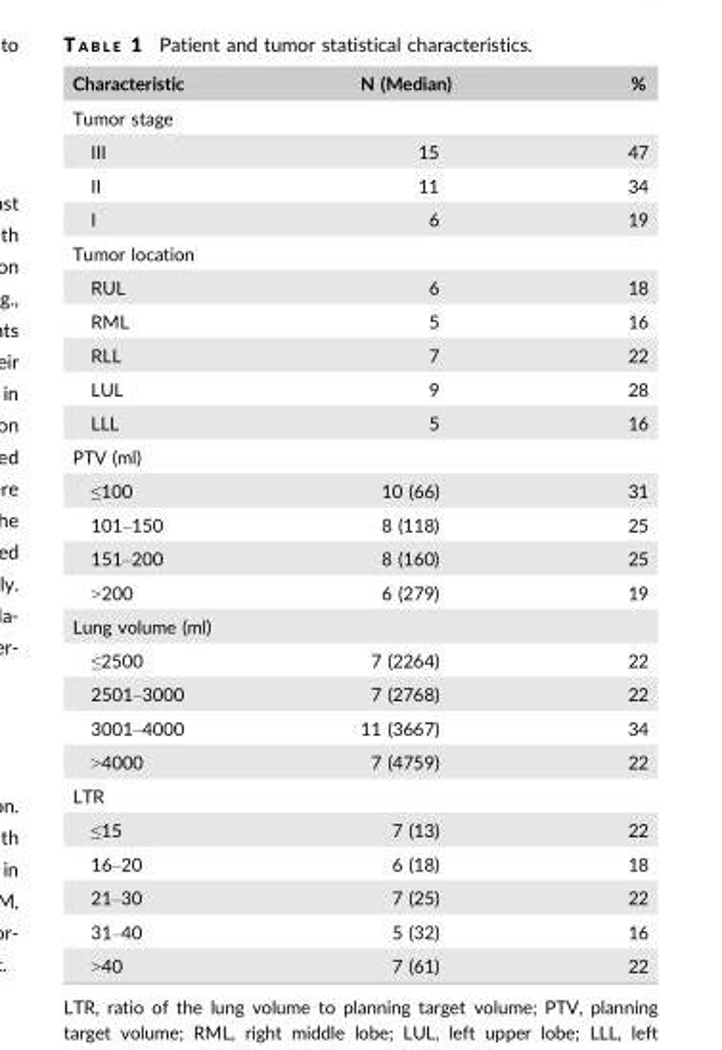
<table><thead><tr><td>Characteristic</td><td>N (Median)</td><td>%</td></tr></thead><tbody><tr><td colspan="3">Tumor stage</td></tr><tr><td>III</td><td>15</td><td>47</td></tr><tr><td>II</td><td>11</td><td>34</td></tr><tr><td>I</td><td>6</td><td>19</td></tr><tr><td colspan="3">Tumor location</td></tr><tr><td>RUL</td><td>6</td><td>18</td></tr><tr><td>RML</td><td>5</td><td>16</td></tr><tr><td>RLL</td><td>7</td><td>22</td></tr><tr><td>LUL</td><td>9</td><td>28</td></tr><tr><td>LLL</td><td>5</td><td>16</td></tr><tr><td colspan="3">PTV (ml)</td></tr><tr><td>≤100</td><td>10 (66)</td><td>31</td></tr><tr><td>101–150</td><td>8 (118)</td><td>25</td></tr><tr><td>151–200</td><td>8 (160)</td><td>25</td></tr><tr><td>&gt;200</td><td>6 (279)</td><td>19</td></tr><tr><td colspan="3">Lung volume (ml)</td></tr><tr><td>≤2500</td><td>7 (2264)</td><td>22</td></tr><tr><td>2501–3000</td><td>7 (2768)</td><td>22</td></tr><tr><td>3001–4000</td><td>11 (3667)</td><td>34</td></tr><tr><td>&gt;4000</td><td>7 (4759)</td><td>22</td></tr><tr><td colspan="3">LTR</td></tr><tr><td>≤15</td><td>7 (13)</td><td>22</td></tr><tr><td>16–20</td><td>6 (18)</td><td>18</td></tr><tr><td>21–30</td><td>7 (25)</td><td>22</td></tr><tr><td>31–40</td><td>5 (32)</td><td>16</td></tr><tr><td>&gt;40</td><td>7 (61)</td><td>22</td></tr></tbody></table>